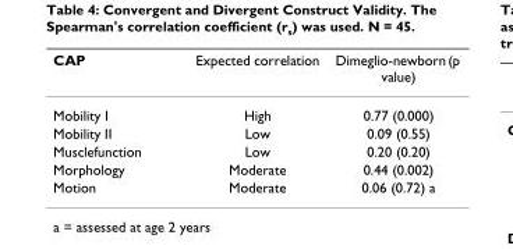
<table><thead><tr><td>CAP</td><td>Expected correlation</td><td>Dimeglio-newborn (p value)</td></tr></thead><tbody><tr><td>Mobility I</td><td>High</td><td>0.77 (0.000)</td></tr><tr><td>Mobility II</td><td>Low</td><td>0.09 (0.55)</td></tr><tr><td>Musclefunction</td><td>Low</td><td>0.20 (0.20)</td></tr><tr><td>Morphology</td><td>Moderate</td><td>0.44 (0.002)</td></tr><tr><td>Motion</td><td>Moderate</td><td>0.06 (0.72) a</td></tr></tbody></table>